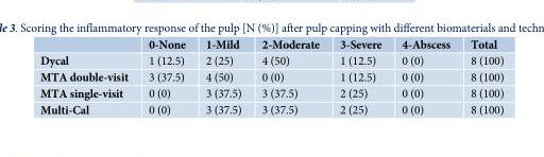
<table><thead><tr><td></td><td>0-None</td><td>1-Mild</td><td>2-Moderate</td><td>3-Severe</td><td>4-Abscess</td><td>Total</td></tr></thead><tbody><tr><td>Dycal</td><td>1 (12.5)</td><td>2 (25)</td><td>4 (50)</td><td>1 (12.5)</td><td>0 (0)</td><td>8 (100)</td></tr><tr><td>MTA double-visit</td><td>3 (37.5)</td><td>4 (50)</td><td>0 (0)</td><td>1 (12.5)</td><td>0 (0)</td><td>8 (100)</td></tr><tr><td>MTA single-visit</td><td>0 (0)</td><td>3 (37.5)</td><td>3 (37.5)</td><td>2 (25)</td><td>0 (0)</td><td>8 (100)</td></tr><tr><td>Multi-Cal</td><td>0 (0)</td><td>3 (37.5)</td><td>3 (37.5)</td><td>2 (25)</td><td>0 (0)</td><td>8 (100)</td></tr></tbody></table>